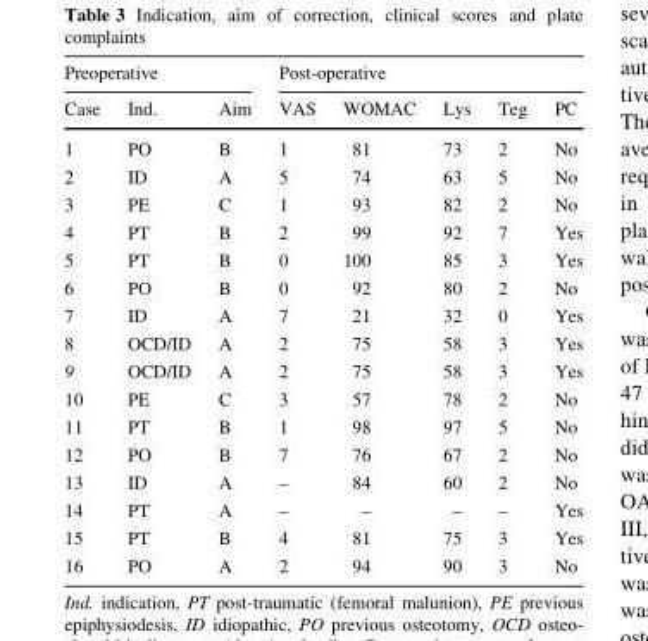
<table><thead><tr><td colspan="3">Preoperative</td><td colspan="5">Post-operative</td></tr><tr><td>Case</td><td>Ind.</td><td>Aim</td><td>VAS</td><td>WOMAC</td><td>Lys</td><td>Teg</td><td>PC</td></tr></thead><tbody><tr><td>1</td><td>PO</td><td>B</td><td>1</td><td>81</td><td>73</td><td>2</td><td>No</td></tr><tr><td>2</td><td>ID</td><td>A</td><td>5</td><td>74</td><td>63</td><td>5</td><td>No</td></tr><tr><td>3</td><td>PE</td><td>C</td><td>1</td><td>93</td><td>82</td><td>2</td><td>No</td></tr><tr><td>4</td><td>PT</td><td>B</td><td>2</td><td>99</td><td>92</td><td>7</td><td>Yes</td></tr><tr><td>5</td><td>PT</td><td>B</td><td>0</td><td>100</td><td>85</td><td>3</td><td>Yes</td></tr><tr><td>6</td><td>PO</td><td>B</td><td>0</td><td>92</td><td>80</td><td>2</td><td>No</td></tr><tr><td>7</td><td>ID</td><td>A</td><td>7</td><td>21</td><td>32</td><td>0</td><td>Yes</td></tr><tr><td>8</td><td>OCD/ID</td><td>A</td><td>2</td><td>75</td><td>58</td><td>3</td><td>Yes</td></tr><tr><td>9</td><td>OCD/ID</td><td>A</td><td>2</td><td>75</td><td>58</td><td>3</td><td>Yes</td></tr><tr><td>10</td><td>PE</td><td>C</td><td>3</td><td>57</td><td>78</td><td>2</td><td>No</td></tr><tr><td>11</td><td>PT</td><td>B</td><td>1</td><td>98</td><td>97</td><td>5</td><td>No</td></tr><tr><td>12</td><td>PO</td><td>B</td><td>7</td><td>76</td><td>67</td><td>2</td><td>No</td></tr><tr><td>13</td><td>ID</td><td>A</td><td>–</td><td>84</td><td>60</td><td>2</td><td>No</td></tr><tr><td>14</td><td>PT</td><td>A</td><td>–</td><td>–</td><td>–</td><td>–</td><td>Yes</td></tr><tr><td>15</td><td>PT</td><td>B</td><td>4</td><td>81</td><td>75</td><td>3</td><td>Yes</td></tr><tr><td>16</td><td>PO</td><td>A</td><td>2</td><td>94</td><td>90</td><td>3</td><td>No</td></tr></tbody></table>